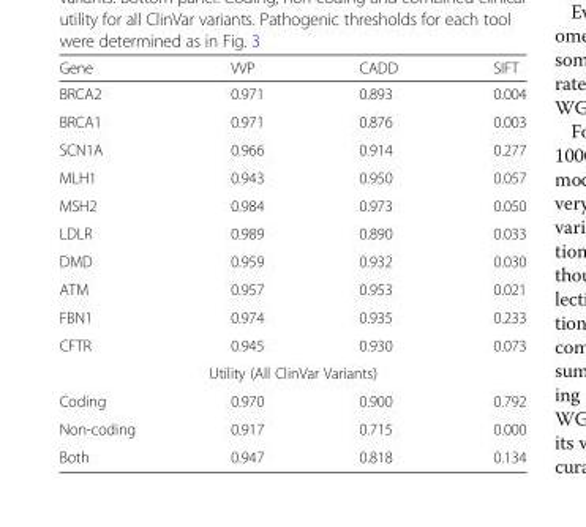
<table><thead><tr><td>Gene</td><td>VVP</td><td>CADD</td><td>SIFT</td></tr></thead><tbody><tr><td>BRCA2</td><td>0.971</td><td>0.893</td><td>0.004</td></tr><tr><td>BRCA1</td><td>0.971</td><td>0.876</td><td>0.003</td></tr><tr><td>SCN1A</td><td>0.966</td><td>0.914</td><td>0.277</td></tr><tr><td>MLH1</td><td>0.943</td><td>0.950</td><td>0.057</td></tr><tr><td>MSH2</td><td>0.984</td><td>0.973</td><td>0.050</td></tr><tr><td>LDLR</td><td>0.989</td><td>0.890</td><td>0.033</td></tr><tr><td>DMD</td><td>0.959</td><td>0.932</td><td>0.030</td></tr><tr><td>ATM</td><td>0.957</td><td>0.953</td><td>0.021</td></tr><tr><td>FBN1</td><td>0.974</td><td>0.935</td><td>0.233</td></tr><tr><td>CFTR</td><td>0.945</td><td>0.930</td><td>0.073</td></tr><tr><td colspan="4">Utility (All ClinVar Variants)</td></tr><tr><td>Coding</td><td>0.970</td><td>0.900</td><td>0.792</td></tr><tr><td>Non-coding</td><td>0.917</td><td>0.715</td><td>0.000</td></tr><tr><td>Both</td><td>0.947</td><td>0.818</td><td>0.134</td></tr></tbody></table>